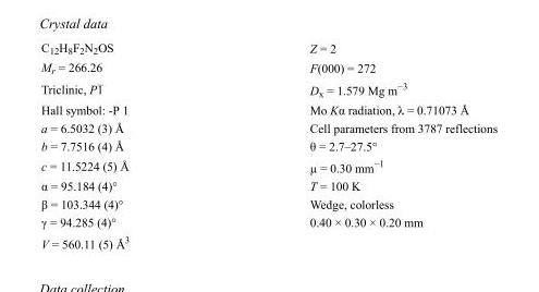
<table><tbody><tr><td>C<sub>12</sub>H<sub>8</sub>F<sub>2</sub>N<sub>2</sub>OS</td><td>Z = 2</td></tr><tr><td>M<sub>r</sub> = 266.26</td><td>F(000) = 272</td></tr><tr><td>Triclinic, P1</td><td>D<sub>x</sub> = 1.579 Mg m<sup>−3</sup></td></tr><tr><td>Hall symbol: -P 1</td><td>Mo Kα radiation, λ = 0.71073 Å</td></tr><tr><td>a = 6.5032 (3) Å</td><td>Cell parameters from 3787 reflections</td></tr><tr><td>b = 7.7516 (4) Å</td><td>θ = 2.7–27.5°</td></tr><tr><td>c = 11.5224 (5) Å</td><td>µ = 0.30 mm<sup>−1</sup></td></tr><tr><td>α = 95.184 (4)°</td><td>T = 100 K</td></tr><tr><td>β = 103.344 (4)°</td><td>Wedge, colorless</td></tr><tr><td>γ = 94.285 (4)°</td><td>0.40 × 0.30 × 0.20 mm</td></tr><tr><td>V = 560.11 (5) Å<sup>3</sup></td><td></td></tr></tbody></table>